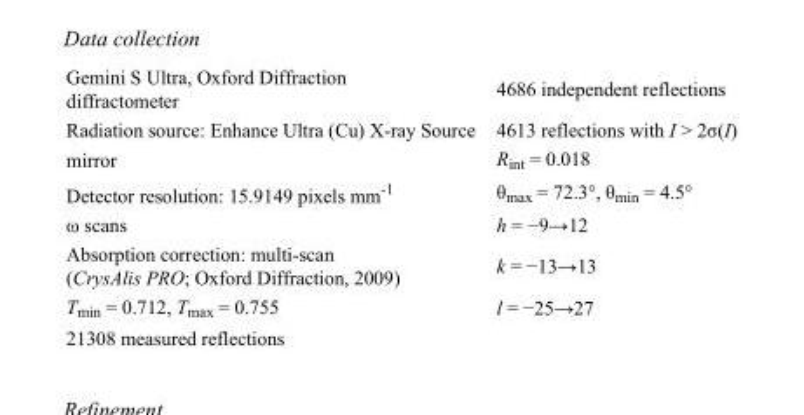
<table><tbody><tr><td>Gemini S Ultra, Oxford Diffraction diffractometer</td><td>4686 independent reflections</td></tr><tr><td>Radiation source: Enhance Ultra (Cu) X-ray Source</td><td>4613 reflections with I &gt; 2σ(I)</td></tr><tr><td>mirror</td><td>R<sub>int</sub> = 0.018</td></tr><tr><td>Detector resolution: 15.9149 pixels mm<sup>-1</sup></td><td>θ<sub>max</sub> = 72.3°, θ<sub>min</sub> = 4.5°</td></tr><tr><td>ω scans</td><td>h = −9→12</td></tr><tr><td>Absorption correction: multi-scan (CrysAlis PRO; Oxford Diffraction, 2009)</td><td>k = −13→13</td></tr><tr><td>T<sub>min</sub> = 0.712, T<sub>max</sub> = 0.755</td><td>l = −25→27</td></tr><tr><td>21308 measured reflections</td><td></td></tr></tbody></table>